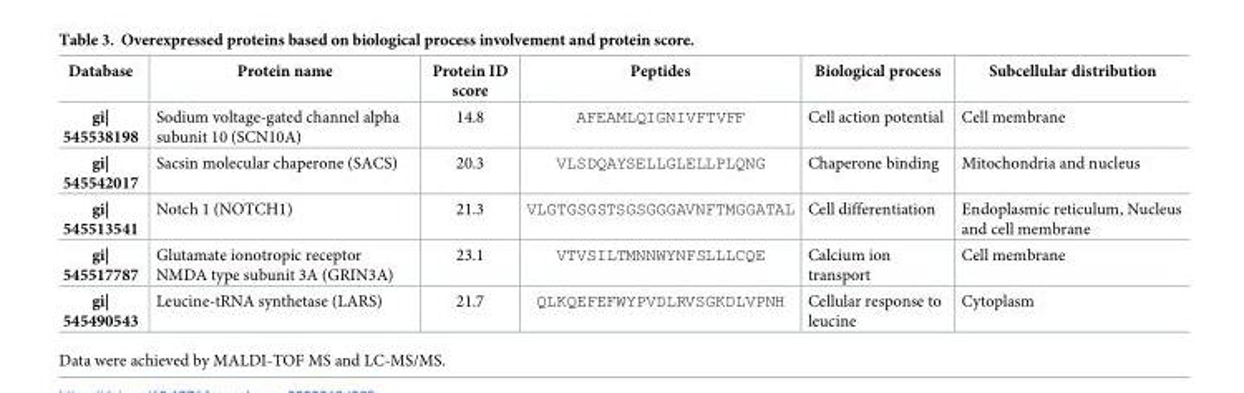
<table><thead><tr><td>Database</td><td>Protein name</td><td>Protein ID score</td><td>Peptides</td><td>Biological process</td><td>Subcellular distribution</td></tr></thead><tbody><tr><td>gi| 545538198</td><td>Sodium voltage-gated channel alpha subunit 10 (SCN10A)</td><td>14.8</td><td>AFEAMLQIGNIVFTVFF</td><td>Cell action potential</td><td>Cell membrane</td></tr><tr><td>gi| 545542017</td><td>Sacsin molecular chaperone (SACS)</td><td>20.3</td><td>VLSDQAYSELLGLELLPLQNG</td><td>Chaperone binding</td><td>Mitochondria and nucleus</td></tr><tr><td>gi| 545513541</td><td>Notch 1 (NOTCH1)</td><td>21.3</td><td>VLGTGSGSTSGSGGGAVNFTMGGATAL</td><td>Cell differentiation</td><td>Endoplasmic reticulum, Nucleus and cell membrane</td></tr><tr><td>gi| 545517787</td><td>Glutamate ionotropic receptor NMDA type subunit 3A (GRIN3A)</td><td>23.1</td><td>VTVSILTMNNWYNFSLLLCQE</td><td>Calcium ion transport</td><td>Cell membrane</td></tr><tr><td>gi| 545490543</td><td>Leucine-tRNA synthetase (LARS)</td><td>21.7</td><td>QLKQEFEFWYPVDLRVSGKDLVPNH</td><td>Cellular response to leucine</td><td>Cytoplasm</td></tr></tbody></table>